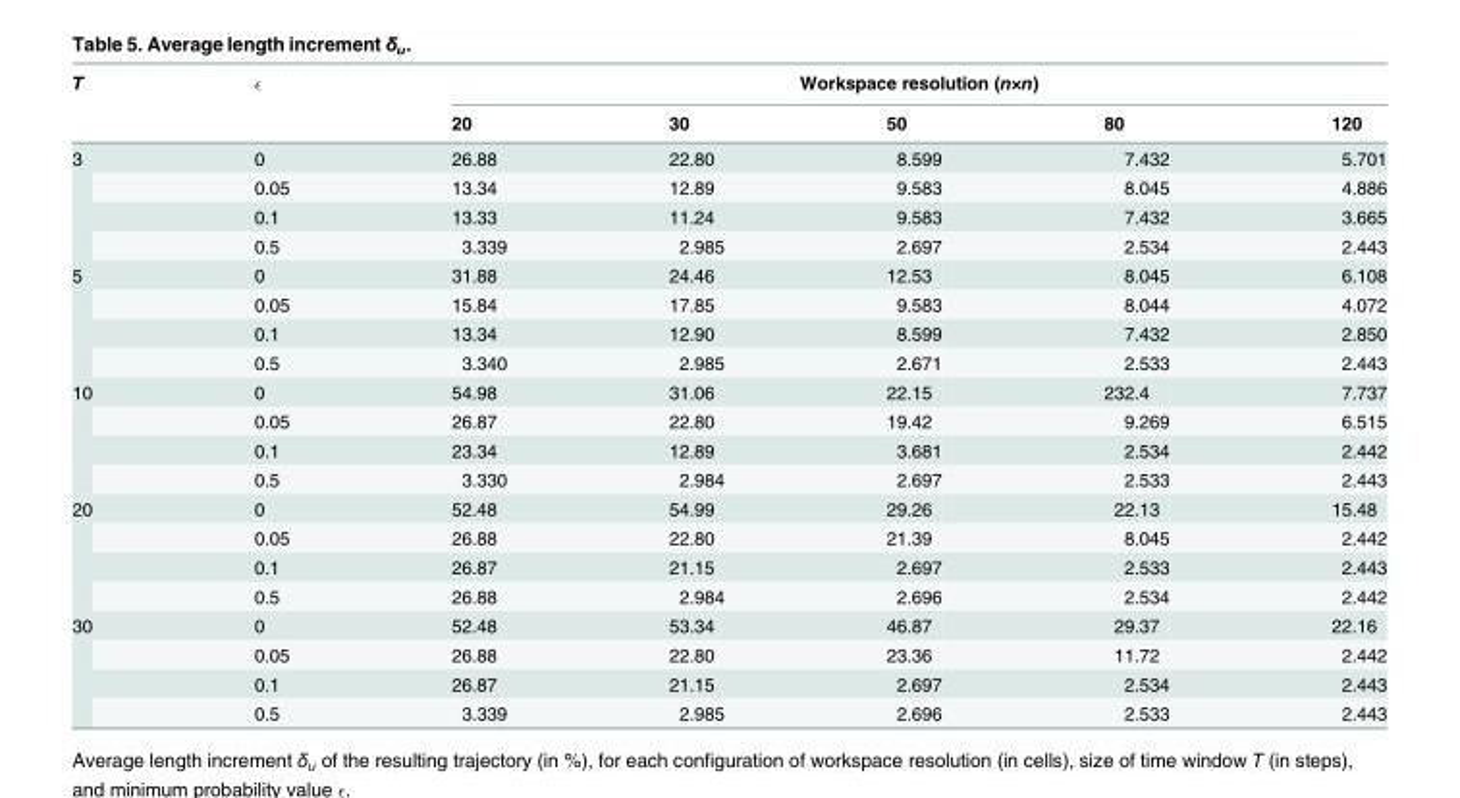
<table><thead><tr><td rowspan="2">T</td><td rowspan="2">ɛ</td><td colspan="5">Workspace resolution (n×n)</td></tr><tr><td>20</td><td>30</td><td>50</td><td>80</td><td>120</td></tr></thead><tbody><tr><td rowspan="4">3</td><td>0</td><td>26.88</td><td>22.80</td><td>8.599</td><td>7.432</td><td>5.701</td></tr><tr><td>0.05</td><td>13.34</td><td>12.89</td><td>9.583</td><td>8.045</td><td>4.886</td></tr><tr><td>0.1</td><td>13.33</td><td>11.24</td><td>9.583</td><td>7.432</td><td>3.665</td></tr><tr><td>0.5</td><td>3.339</td><td>2.985</td><td>2.697</td><td>2.534</td><td>2.443</td></tr><tr><td rowspan="4">5</td><td>0</td><td>31.88</td><td>24.46</td><td>12.53</td><td>8.045</td><td>6.108</td></tr><tr><td>0.05</td><td>15.84</td><td>17.85</td><td>9.583</td><td>8.044</td><td>4.072</td></tr><tr><td>0.1</td><td>13.34</td><td>12.90</td><td>8.599</td><td>7.432</td><td>2.850</td></tr><tr><td>0.5</td><td>3.340</td><td>2.985</td><td>2.671</td><td>2.533</td><td>2.443</td></tr><tr><td rowspan="4">10</td><td>0</td><td>54.98</td><td>31.06</td><td>22.15</td><td>232.4</td><td>7.737</td></tr><tr><td>0.05</td><td>26.87</td><td>22.80</td><td>19.42</td><td>9.269</td><td>6.515</td></tr><tr><td>0.1</td><td>23.34</td><td>12.89</td><td>3.681</td><td>2.534</td><td>2.442</td></tr><tr><td>0.5</td><td>3.330</td><td>2.984</td><td>2.697</td><td>2.533</td><td>2.443</td></tr><tr><td rowspan="4">20</td><td>0</td><td>52.48</td><td>54.99</td><td>29.26</td><td>22.13</td><td>15.48</td></tr><tr><td>0.05</td><td>26.88</td><td>22.80</td><td>21.39</td><td>8.045</td><td>2.442</td></tr><tr><td>0.1</td><td>26.87</td><td>21.15</td><td>2.697</td><td>2.533</td><td>2.443</td></tr><tr><td>0.5</td><td>26.88</td><td>2.984</td><td>2.696</td><td>2.534</td><td>2.442</td></tr><tr><td rowspan="4">30</td><td>0</td><td>52.48</td><td>53.34</td><td>46.87</td><td>29.37</td><td>22.16</td></tr><tr><td>0.05</td><td>26.88</td><td>22.80</td><td>23.36</td><td>11.72</td><td>2.442</td></tr><tr><td>0.1</td><td>26.87</td><td>21.15</td><td>2.697</td><td>2.534</td><td>2.443</td></tr><tr><td>0.5</td><td>3.339</td><td>2.985</td><td>2.696</td><td>2.533</td><td>2.443</td></tr></tbody></table>